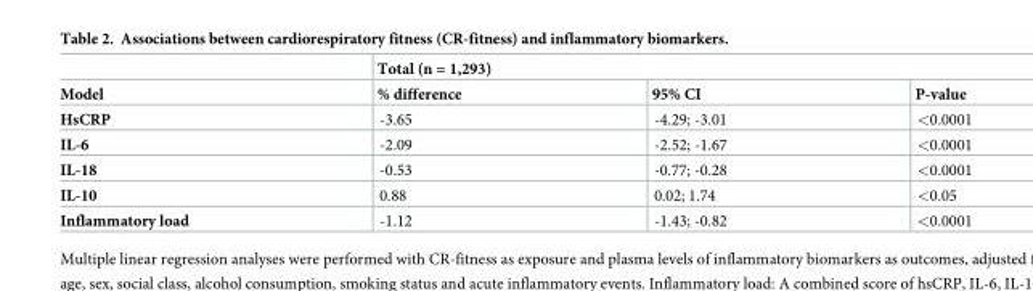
<table><thead><tr><td rowspan="2">Model</td><td colspan="3">Total (n = 1,293)</td></tr><tr><td>% difference</td><td>95% CI</td><td>P-value</td></tr></thead><tbody><tr><td>HsCRP</td><td>-3.65</td><td>-4.29; -3.01</td><td>&lt;0.0001</td></tr><tr><td>IL-6</td><td>-2.09</td><td>-2.52; -1.67</td><td>&lt;0.0001</td></tr><tr><td>IL-18</td><td>-0.53</td><td>-0.77; -0.28</td><td>&lt;0.0001</td></tr><tr><td>IL-10</td><td>0.88</td><td>0.02; 1.74</td><td>&lt;0.05</td></tr><tr><td>Inflammatory load</td><td>-1.12</td><td>-1.43; -0.82</td><td>&lt;0.0001</td></tr></tbody></table>